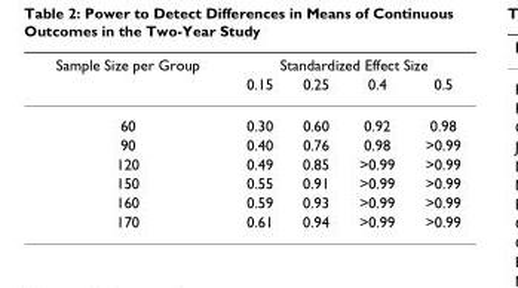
<table><thead><tr><td rowspan="2">Sample Size per Group</td><td colspan="4">Standardized Effect Size</td></tr><tr><td>0.15</td><td>0.25</td><td>0.4</td><td>0.5</td></tr></thead><tbody><tr><td>60</td><td>0.30</td><td>0.60</td><td>0.92</td><td>0.98</td></tr><tr><td>90</td><td>0.40</td><td>0.76</td><td>0.98</td><td>&gt;0.99</td></tr><tr><td>120</td><td>0.49</td><td>0.85</td><td>&gt;0.99</td><td>&gt;0.99</td></tr><tr><td>150</td><td>0.55</td><td>0.91</td><td>&gt;0.99</td><td>&gt;0.99</td></tr><tr><td>160</td><td>0.59</td><td>0.93</td><td>&gt;0.99</td><td>&gt;0.99</td></tr><tr><td>170</td><td>0.61</td><td>0.94</td><td>&gt;0.99</td><td>&gt;0.99</td></tr></tbody></table>